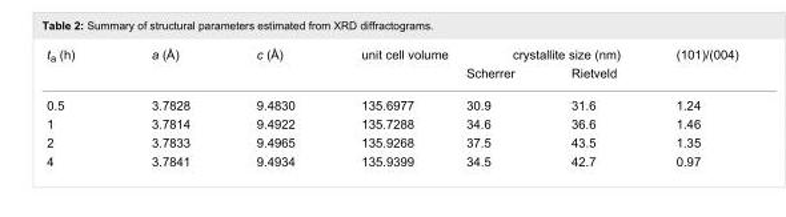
<table><tbody><tr><td rowspan="2">t<sub>a</sub> (h)</td><td rowspan="2">a (Å)</td><td rowspan="2">c (Å)</td><td rowspan="2">unit cell volume</td><td colspan="2">crystallite size (nm)</td><td rowspan="2">(101)/(004)</td></tr><tr><td>Scherrer</td><td>Rietveld</td></tr><tr><td>0.5</td><td>3.7828</td><td>9.4830</td><td>135.6977</td><td>30.9</td><td>31.6</td><td>1.24</td></tr><tr><td>1</td><td>3.7814</td><td>9.4922</td><td>135.7288</td><td>34.6</td><td>36.6</td><td>1.46</td></tr><tr><td>2</td><td>3.7833</td><td>9.4965</td><td>135.9268</td><td>37.5</td><td>43.5</td><td>1.35</td></tr><tr><td>4</td><td>3.7841</td><td>9.4934</td><td>135.9399</td><td>34.5</td><td>42.7</td><td>0.97</td></tr></tbody></table>